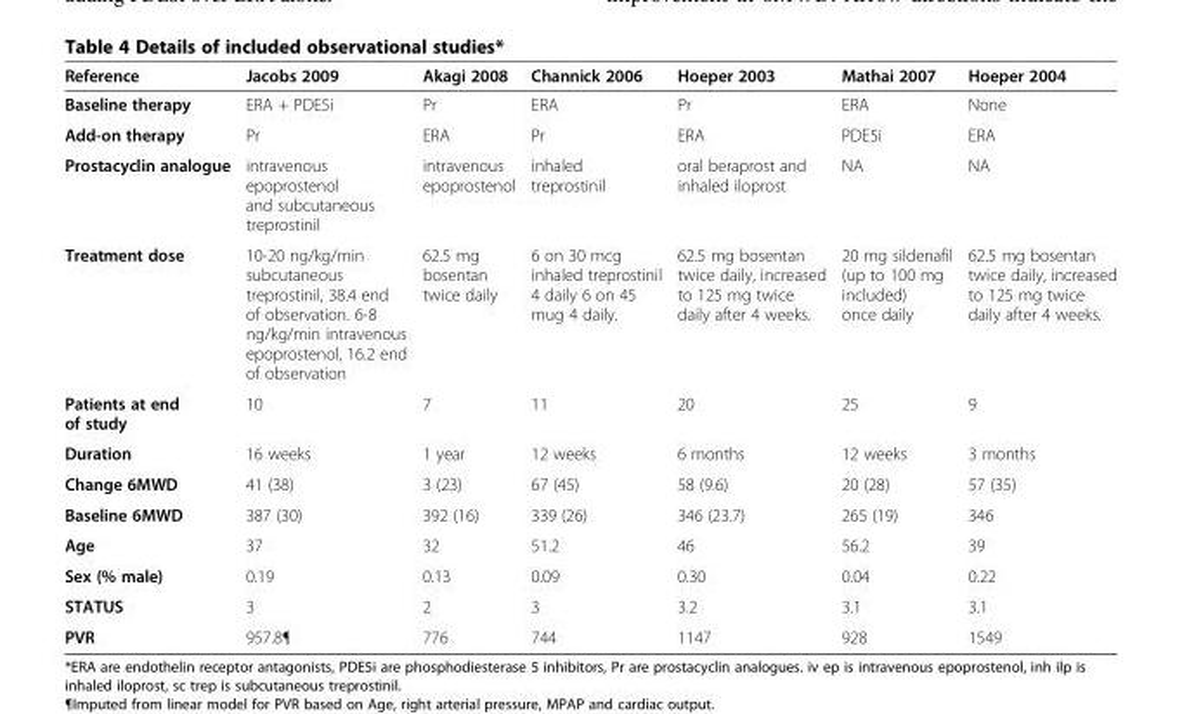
<table><thead><tr><td>Reference</td><td>Jacobs 2009</td><td>Akagi 2008</td><td>Channick 2006</td><td>Hoeper 2003</td><td>Mathai 2007</td><td>Hoeper 2004</td></tr></thead><tbody><tr><td>Baseline therapy</td><td>ERA + PDE5i</td><td>Pr</td><td>ERA</td><td>Pr</td><td>ERA</td><td>None</td></tr><tr><td>Add-on therapy</td><td>Pr</td><td>ERA</td><td>Pr</td><td>ERA</td><td>PDE5i</td><td>ERA</td></tr><tr><td>Prostacyclin analogue</td><td>intravenous epoprostenol and subcutaneous treprostinil</td><td>intravenous epoprostenol</td><td>inhaled treprostinil</td><td>oral beraprost and inhaled iloprost</td><td>NA</td><td>NA</td></tr><tr><td>Treatment dose</td><td>10-20 ng/kg/min subcutaneous treprostinil, 38.4 end of observation. 6-8 ng/kg/min intravenous epoprostenol, 16.2 end of observation</td><td>62.5 mg bosentan twice daily</td><td>6 on 30 mcg inhaled treprostinil 4 daily 6 on 45 mug 4 daily.</td><td>62.5 mg bosentan twice daily, increased to 125 mg twice daily after 4 weeks.</td><td>20 mg sildenafil (up to 100 mg included) once daily</td><td>62.5 mg bosentan twice daily, increased to 125 mg twice daily after 4 weeks.</td></tr><tr><td>Patients at end of study</td><td>10</td><td>7</td><td>11</td><td>20</td><td>25</td><td>9</td></tr><tr><td>Duration</td><td>16 weeks</td><td>1 year</td><td>12 weeks</td><td>6 months</td><td>12 weeks</td><td>3 months</td></tr><tr><td>Change 6MWD</td><td>41 (38)</td><td>3 (23)</td><td>67 (45)</td><td>58 (9.6)</td><td>20 (28)</td><td>57 (35)</td></tr><tr><td>Baseline 6MWD</td><td>387 (30)</td><td>392 (16)</td><td>339 (26)</td><td>346 (23.7)</td><td>265 (19)</td><td>346</td></tr><tr><td>Age</td><td>37</td><td>32</td><td>51.2</td><td>46</td><td>56.2</td><td>39</td></tr><tr><td>Sex (% male)</td><td>0.19</td><td>0.13</td><td>0.09</td><td>0.30</td><td>0.04</td><td>0.22</td></tr><tr><td>STATUS</td><td>3</td><td>2</td><td>3</td><td>3.2</td><td>3.1</td><td>3.1</td></tr><tr><td>PVR</td><td>957.8¶</td><td>776</td><td>744</td><td>1147</td><td>928</td><td>1549</td></tr></tbody></table>